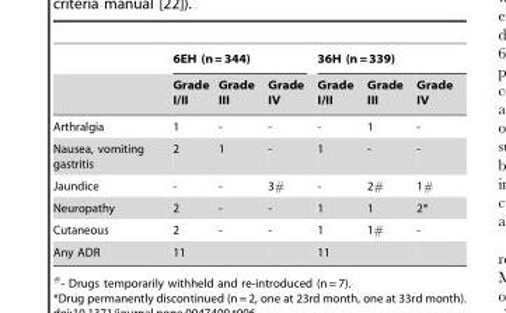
<table><thead><tr><td rowspan="2"></td><td colspan="3">6EH (n = 344)</td><td colspan="3">36H (n = 339)</td></tr><tr><td>Grade I/II</td><td>Grade III</td><td>Grade IV</td><td>Grade I/II</td><td>Grade III</td><td>Grade IV</td></tr></thead><tbody><tr><td>Arthralgia</td><td>1</td><td>-</td><td>-</td><td>-</td><td>1</td><td>-</td></tr><tr><td>Nausea, vomiting gastritis</td><td>2</td><td>1</td><td>-</td><td>1</td><td>-</td><td>-</td></tr><tr><td>Jaundice</td><td>-</td><td>-</td><td>3#</td><td>-</td><td>2#</td><td>1#</td></tr><tr><td>Neuropathy</td><td>2</td><td>-</td><td>-</td><td>1</td><td>1</td><td>2*</td></tr><tr><td>Cutaneous</td><td>2</td><td>-</td><td>-</td><td>1</td><td>1#</td><td>-</td></tr><tr><td>Any ADR</td><td>11</td><td></td><td></td><td>11</td><td></td><td></td></tr></tbody></table>